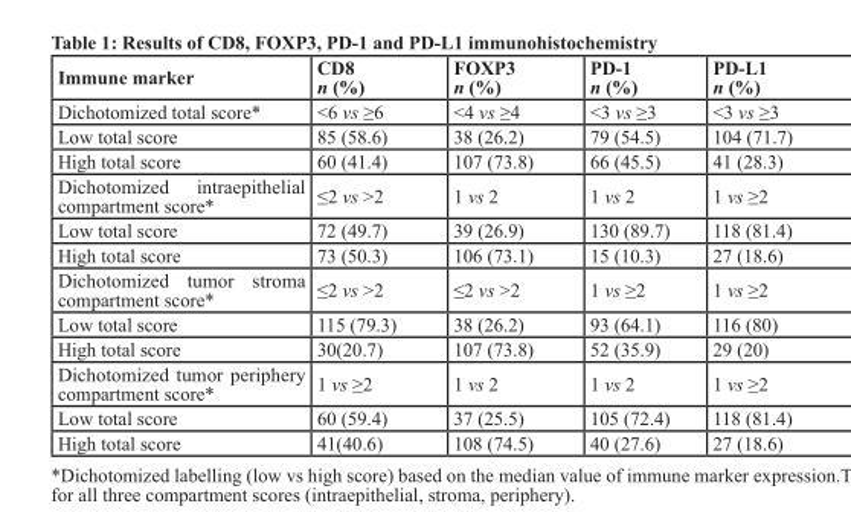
<table><thead><tr><td>Immune marker</td><td>cD8 n (%)</td><td>FOXP3 n (%)</td><td>PD-1 n (%)</td><td>PD-L1 n (%)</td></tr></thead><tbody><tr><td>Dichotomized total score*</td><td>&lt;6 vs ≥6</td><td>&lt;4 vs ≥4</td><td>&lt;3 vs ≥3</td><td>&lt;3 vs ≥3</td></tr><tr><td>Low total score</td><td>85 (58.6)</td><td>38 (26.2)</td><td>79 (54.5)</td><td>104 (71.7)</td></tr><tr><td>High total score</td><td>60 (41.4)</td><td>107 (73.8)</td><td>66 (45.5)</td><td>41 (28.3)</td></tr><tr><td>Dichotomized intraepithelial compartment score*</td><td>≤2 vs &gt;2</td><td>1 vs 2</td><td>1 vs 2</td><td>1 vs ≥2</td></tr><tr><td>Low total score</td><td>72 (49.7)</td><td>39 (26.9)</td><td>130 (89.7)</td><td>118 (81.4)</td></tr><tr><td>High total score</td><td>73 (50.3)</td><td>106 (73.1)</td><td>15 (10.3)</td><td>27 (18.6)</td></tr><tr><td>Dichotomized tumor stroma compartment score*</td><td>≤2 vs &gt;2</td><td>≤2 vs &gt;2</td><td>1 vs ≥2</td><td>1 vs ≥2</td></tr><tr><td>Low total score</td><td>115 (79.3)</td><td>38 (26.2)</td><td>93 (64.1)</td><td>116 (80)</td></tr><tr><td>High total score</td><td>30(20.7)</td><td>107 (73.8)</td><td>52 (35.9)</td><td>29 (20)</td></tr><tr><td>Dichotomized tumor periphery compartment score*</td><td>1 vs ≥2</td><td>1 vs 2</td><td>1 vs 2</td><td>1 vs ≥2</td></tr><tr><td>Low total score</td><td>60 (59.4)</td><td>37 (25.5)</td><td>105 (72.4)</td><td>118 (81.4)</td></tr><tr><td>High total score</td><td>41(40.6)</td><td>108 (74.5)</td><td>40 (27.6)</td><td>27 (18.6)</td></tr></tbody></table>